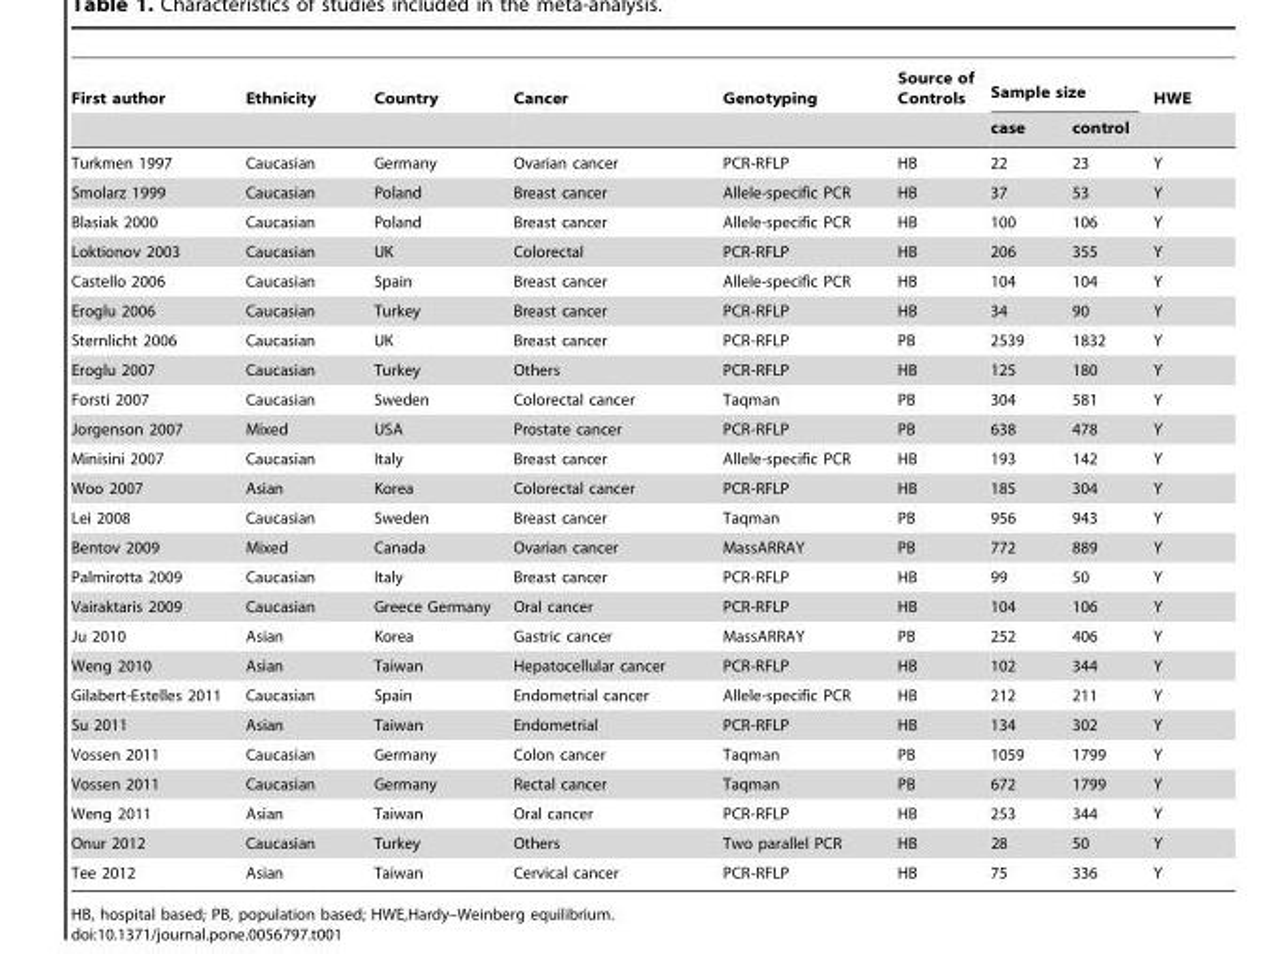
<table><thead><tr><td rowspan="2">First author</td><td rowspan="2">Ethnicity</td><td rowspan="2">Country</td><td rowspan="2">Cancer</td><td rowspan="2">Genotyping</td><td rowspan="2">Source of Controls</td><td colspan="2">Sample size</td><td rowspan="2">HWE</td></tr><tr><td>case</td><td>control</td></tr></thead><tbody><tr><td>Turkmen 1997</td><td>Caucasian</td><td>Germany</td><td>Ovarian cancer</td><td>PCR-RFLP</td><td>HB</td><td>22</td><td>23</td><td>Y</td></tr><tr><td>Smolarz 1999</td><td>Caucasian</td><td>Poland</td><td>Breast cancer</td><td>Allele-specific PCR</td><td>HB</td><td>37</td><td>53</td><td>Y</td></tr><tr><td>Blasiak 2000</td><td>Caucasian</td><td>Poland</td><td>Breast cancer</td><td>Allele-specific PCR</td><td>HB</td><td>100</td><td>106</td><td>Y</td></tr><tr><td>Loktionov 2003</td><td>Caucasian</td><td>UK</td><td>Colorectal</td><td>PCR-RFLP</td><td>HB</td><td>206</td><td>355</td><td>Y</td></tr><tr><td>Castello 2006</td><td>Caucasian</td><td>Spain</td><td>Breast cancer</td><td>Allele-specific PCR</td><td>HB</td><td>104</td><td>104</td><td>Y</td></tr><tr><td>Eroglu 2006</td><td>Caucasian</td><td>Turkey</td><td>Breast cancer</td><td>PCR-RFLP</td><td>HB</td><td>34</td><td>90</td><td>Y</td></tr><tr><td>Sternlicht 2006</td><td>Caucasian</td><td>UK</td><td>Breast cancer</td><td>PCR-RFLP</td><td>PB</td><td>2539</td><td>1832</td><td>Y</td></tr><tr><td>Eroglu 2007</td><td>Caucasian</td><td>Turkey</td><td>Others</td><td>PCR-RFLP</td><td>HB</td><td>125</td><td>180</td><td>Y</td></tr><tr><td>Forsti 2007</td><td>Caucasian</td><td>Sweden</td><td>Colorectal cancer</td><td>Taqman</td><td>PB</td><td>304</td><td>581</td><td>Y</td></tr><tr><td>Jorgenson 2007</td><td>Mixed</td><td>USA</td><td>Prostate cancer</td><td>PCR-RFLP</td><td>PB</td><td>638</td><td>478</td><td>Y</td></tr><tr><td>Minisini 2007</td><td>Caucasian</td><td>Italy</td><td>Breast cancer</td><td>Allele-specific PCR</td><td>HB</td><td>193</td><td>142</td><td>Y</td></tr><tr><td>Woo 2007</td><td>Asian</td><td>Korea</td><td>Colorectal cancer</td><td>PCR-RFLP</td><td>HB</td><td>185</td><td>304</td><td>Y</td></tr><tr><td>Lei 2008</td><td>Caucasian</td><td>Sweden</td><td>Breast cancer</td><td>Taqman</td><td>PB</td><td>956</td><td>943</td><td>Y</td></tr><tr><td>Bentov 2009</td><td>Mixed</td><td>Canada</td><td>Ovarian cancer</td><td>MassARRAY</td><td>PB</td><td>772</td><td>889</td><td>Y</td></tr><tr><td>Palmirotta 2009</td><td>Caucasian</td><td>Italy</td><td>Breast cancer</td><td>PCR-RFLP</td><td>HB</td><td>99</td><td>50</td><td>Y</td></tr><tr><td>Vairaktaris 2009</td><td>Caucasian</td><td>Greece Germany</td><td>Oral cancer</td><td>PCR-RFLP</td><td>HB</td><td>104</td><td>106</td><td>Y</td></tr><tr><td>Ju 2010</td><td>Asian</td><td>Korea</td><td>Gastric cancer</td><td>MassARRAY</td><td>PB</td><td>252</td><td>406</td><td>Y</td></tr><tr><td>Weng 2010</td><td>Asian</td><td>Taiwan</td><td>Hepatocellular cancer</td><td>PCR-RFLP</td><td>HB</td><td>102</td><td>344</td><td>Y</td></tr><tr><td>Gilabert-Estelles 2011</td><td>Caucasian</td><td>Spain</td><td>Endometrial cancer</td><td>Allele-specific PCR</td><td>HB</td><td>212</td><td>211</td><td>Y</td></tr><tr><td>Su 2011</td><td>Asian</td><td>Taiwan</td><td>Endometrial</td><td>PCR-RFLP</td><td>HB</td><td>134</td><td>302</td><td>Y</td></tr><tr><td>Vossen 2011</td><td>Caucasian</td><td>Germany</td><td>Colon cancer</td><td>Taqman</td><td>PB</td><td>1059</td><td>1799</td><td>Y</td></tr><tr><td>Vossen 2011</td><td>Caucasian</td><td>Germany</td><td>Rectal cancer</td><td>Taqman</td><td>PB</td><td>672</td><td>1799</td><td>Y</td></tr><tr><td>Weng 2011</td><td>Asian</td><td>Taiwan</td><td>Oral cancer</td><td>PCR-RFLP</td><td>HB</td><td>253</td><td>344</td><td>Y</td></tr><tr><td>Onur 2012</td><td>Caucasian</td><td>Turkey</td><td>Others</td><td>Two parallel PCR</td><td>HB</td><td>28</td><td>50</td><td>Y</td></tr><tr><td>Tee 2012</td><td>Asian</td><td>Taiwan</td><td>Cervical cancer</td><td>PCR-RFLP</td><td>HB</td><td>75</td><td>336</td><td>Y</td></tr></tbody></table>